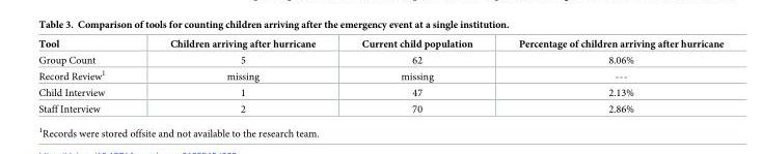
<table><thead><tr><td>Tool</td><td>Children arriving after hurricane</td><td>Current child population</td><td>Percentage of children arriving after hurricane</td></tr></thead><tbody><tr><td>Group Count</td><td>5</td><td>62</td><td>8.06%</td></tr><tr><td>Record Review<sup>1</sup></td><td>missing</td><td>missing</td><td>---</td></tr><tr><td>Child Interview</td><td>1</td><td>47</td><td>2.13%</td></tr><tr><td>Staff Interview</td><td>2</td><td>70</td><td>2.86%</td></tr></tbody></table>